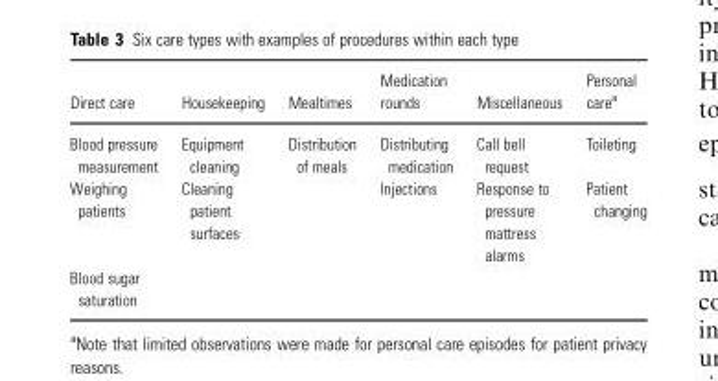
<table><thead><tr><td>Direct care</td><td>Housekeeping</td><td>Mealtimes</td><td>Medication rounds</td><td>Miscellaneous</td><td>Personal care<sup>a</sup></td></tr></thead><tbody><tr><td>Blood pressure measurement</td><td>Equipment cleaning</td><td>Distribution of meals</td><td>Distributing medication</td><td>Call bell request</td><td>Toileting</td></tr><tr><td>Weighing patients</td><td>Cleaning patient surfaces</td><td></td><td>Injections</td><td>Response to pressure mattress alarms</td><td>Patient changing</td></tr><tr><td>Blood sugar saturation</td><td></td><td></td><td></td><td></td><td></td></tr></tbody></table>